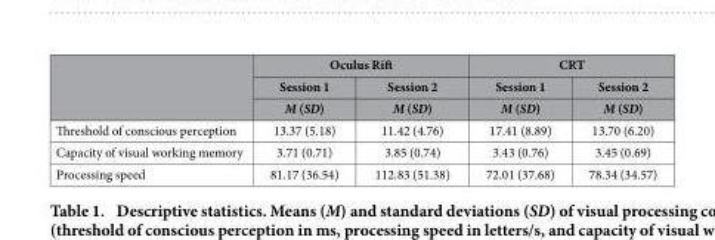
<table><thead><tr><td rowspan="3"></td><td colspan="2">Oculus Rift</td><td colspan="2">CRT</td></tr><tr><td rowspan="2">Session 1 M (SD)</td><td rowspan="2">Session 2 M (SD)</td><td rowspan="2">Session 1 M (SD)</td><td rowspan="2">Session 2 M (SD)</td></tr><tr></tr></thead><tbody><tr><td>Threshold of conscious perception</td><td>13.37 (5.18)</td><td>11.42 (4.76)</td><td>17.41 (8.89)</td><td>13.70 (6.20)</td></tr><tr><td>Capacity of visual working memory</td><td>3.71 (0.71)</td><td>3.85 (0.74)</td><td>3.43 (0.76)</td><td>3.45 (0.69)</td></tr><tr><td>Processing speed</td><td>81.17 (36.54)</td><td>112.83 (51.38)</td><td>72.01 (37.68)</td><td>78.34 (34.57)</td></tr></tbody></table>